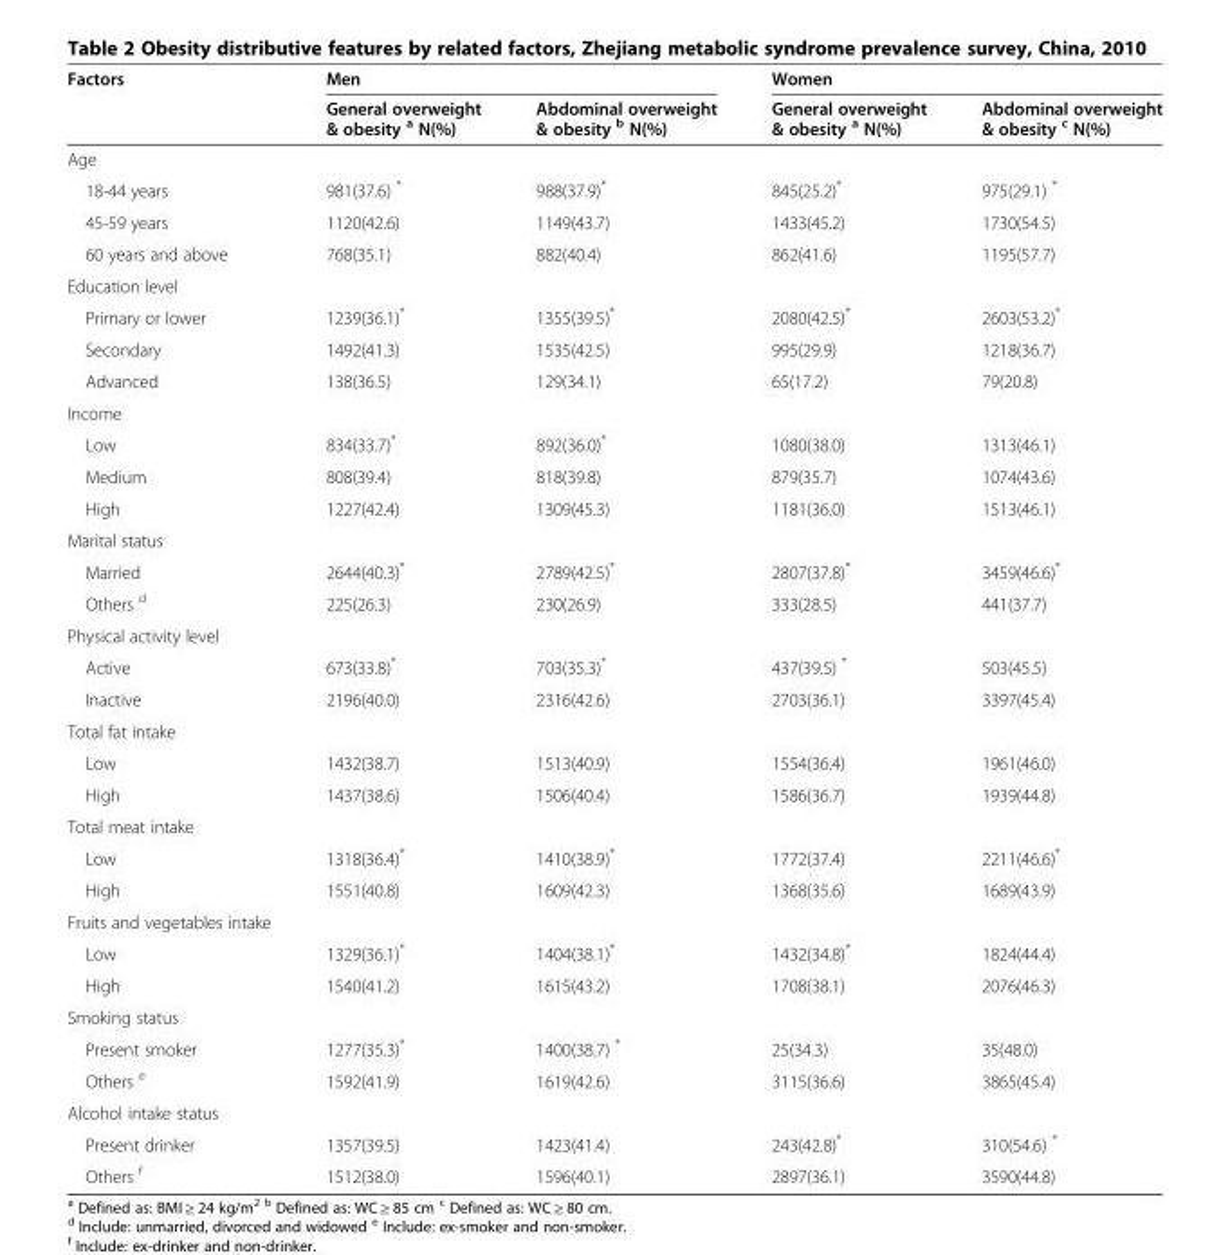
<table><thead><tr><td rowspan="2">Factors</td><td colspan="2">Men</td><td colspan="2">Women</td></tr><tr><td>General overweight &amp; obesity <sup>a</sup> N(%)</td><td>Abdominal overweight &amp; obesity <sup>b</sup> N(%)</td><td>General overweight &amp; obesity <sup>a</sup> N(%)</td><td>Abdominal overweight &amp; obesity <sup>c</sup> N(%)</td></tr></thead><tbody><tr><td colspan="5">Age</td></tr><tr><td>18-44 years</td><td>981(37.6) *</td><td>988(37.9)*</td><td>845(25.2)*</td><td>975(29.1) *</td></tr><tr><td>45-59 years</td><td>1120(42.6)</td><td>1149(43.7)</td><td>1433(45.2)</td><td>1730(54.5)</td></tr><tr><td>60 years and above</td><td>768(35.1)</td><td>882(40.4)</td><td>862(41.6)</td><td>1195(57.7)</td></tr><tr><td colspan="5">Education level</td></tr><tr><td>Primary or lower</td><td>1239(36.1)*</td><td>1355(39.5)*</td><td>2080(42.5)*</td><td>2603(53.2)*</td></tr><tr><td>Secondary</td><td>1492(41.3)</td><td>1535(42.5)</td><td>995(29.9)</td><td>1218(36.7)</td></tr><tr><td>Advanced</td><td>138(36.5)</td><td>129(34.1)</td><td>65(17.2)</td><td>79(20.8)</td></tr><tr><td colspan="5">Income</td></tr><tr><td>Low</td><td>834(33.7)*</td><td>892(36.0)*</td><td>1080(38.0)</td><td>1313(46.1)</td></tr><tr><td>Medium</td><td>808(39.4)</td><td>818(39.8)</td><td>879(35.7)</td><td>1074(43.6)</td></tr><tr><td>High</td><td>1227(42.4)</td><td>1309(45.3)</td><td>1181(36.0)</td><td>1513(46.1)</td></tr><tr><td colspan="5">Marital status</td></tr><tr><td>Married</td><td>2644(40.3)*</td><td>2789(42.5)*</td><td>2807(37.8)*</td><td>3459(46.6)*</td></tr><tr><td>Others <sup>d</sup></td><td>225(26.3)</td><td>230(26.9)</td><td>333(28.5)</td><td>441(37.7)</td></tr><tr><td colspan="5">Physical activity level</td></tr><tr><td>Active</td><td>673(33.8)*</td><td>703(35.3)*</td><td>437(39.5) *</td><td>503(45.5)</td></tr><tr><td>Inactive</td><td>2196(40.0)</td><td>2316(42.6)</td><td>2703(36.1)</td><td>3397(45.4)</td></tr><tr><td colspan="5">Total fat intake</td></tr><tr><td>Low</td><td>1432(38.7)</td><td>1513(40.9)</td><td>1554(36.4)</td><td>1961(46.0)</td></tr><tr><td>High</td><td>1437(38.6)</td><td>1506(40.4)</td><td>1586(36.7)</td><td>1939(44.8)</td></tr><tr><td colspan="5">Total meat intake</td></tr><tr><td>Low</td><td>1318(36.4)*</td><td>1410(38.9)*</td><td>1772(37.4)</td><td>2211(46.6)*</td></tr><tr><td>High</td><td>1551(40.8)</td><td>1609(42.3)</td><td>1368(35.6)</td><td>1689(43.9)</td></tr><tr><td colspan="5">Fruits and vegetables intake</td></tr><tr><td>Low</td><td>1329(36.1)*</td><td>1404(38.1)*</td><td>1432(34.8)*</td><td>1824(44.4)</td></tr><tr><td>High</td><td>1540(41.2)</td><td>1615(43.2)</td><td>1708(38.1)</td><td>2076(46.3)</td></tr><tr><td colspan="5">Smoking status</td></tr><tr><td>Present smoker</td><td>1277(35.3)*</td><td>1400(38.7) *</td><td>25(34.3)</td><td>35(48.0)</td></tr><tr><td>Others <sup>e</sup></td><td>1592(41.9)</td><td>1619(42.6)</td><td>3115(36.6)</td><td>3865(45.4)</td></tr><tr><td colspan="5">Alcohol intake status</td></tr><tr><td>Present drinker</td><td>1357(39.5)</td><td>1423(41.4)</td><td>243(42.8)*</td><td>310(54.6) *</td></tr><tr><td>Others <sup>f</sup></td><td>1512(38.0)</td><td>1596(40.1)</td><td>2897(36.1)</td><td>3590(44.8)</td></tr></tbody></table>